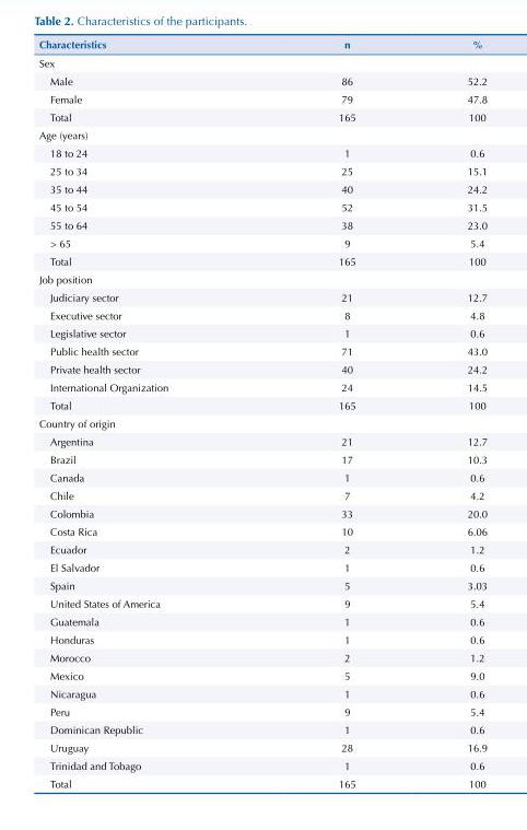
<table><thead><tr><td>Characteristics</td><td>n</td><td>%</td></tr></thead><tbody><tr><td colspan="3">Sex</td></tr><tr><td>Male</td><td>86</td><td>52.2</td></tr><tr><td>Female</td><td>79</td><td>47.8</td></tr><tr><td>Total</td><td>165</td><td>100</td></tr><tr><td colspan="3">Age (years)</td></tr><tr><td>18 to 24</td><td>1</td><td>0.6</td></tr><tr><td>25 to 34</td><td>25</td><td>15.1</td></tr><tr><td>35 to 44</td><td>40</td><td>24.2</td></tr><tr><td>45 to 54</td><td>52</td><td>31.5</td></tr><tr><td>55 to 64</td><td>38</td><td>23.0</td></tr><tr><td>&gt; 65</td><td>9</td><td>5.4</td></tr><tr><td>Total</td><td>165</td><td>100</td></tr><tr><td colspan="3">Job position</td></tr><tr><td>Judiciary sector</td><td>21</td><td>12.7</td></tr><tr><td>Executive sector</td><td>8</td><td>4.8</td></tr><tr><td>Legislative sector</td><td>1</td><td>0.6</td></tr><tr><td>Public health sector</td><td>71</td><td>43.0</td></tr><tr><td>Private health sector</td><td>40</td><td>24.2</td></tr><tr><td>International Organization</td><td>24</td><td>14.5</td></tr><tr><td>Total</td><td>165</td><td>100</td></tr><tr><td colspan="3">Country of origin</td></tr><tr><td>Argentina</td><td>21</td><td>12.7</td></tr><tr><td>Brazil</td><td>17</td><td>10.3</td></tr><tr><td>Canada</td><td>1</td><td>0.6</td></tr><tr><td>Chile</td><td>7</td><td>4.2</td></tr><tr><td>Colombia</td><td>33</td><td>20.0</td></tr><tr><td>Costa Rica</td><td>10</td><td>6.06</td></tr><tr><td>Ecuador</td><td>2</td><td>1.2</td></tr><tr><td>El Salvador</td><td>1</td><td>0.6</td></tr><tr><td>Spain</td><td>5</td><td>3.03</td></tr><tr><td>United States of America</td><td>9</td><td>5.4</td></tr><tr><td>Guatemala</td><td>1</td><td>0.6</td></tr><tr><td>Honduras</td><td>1</td><td>0.6</td></tr><tr><td>Morocco</td><td>2</td><td>1.2</td></tr><tr><td>Mexico</td><td>5</td><td>9.0</td></tr><tr><td>Nicaragua</td><td>1</td><td>0.6</td></tr><tr><td>Peru</td><td>9</td><td>5.4</td></tr><tr><td>Dominican Republic</td><td>1</td><td>0.6</td></tr><tr><td>Uruguay</td><td>28</td><td>16.9</td></tr><tr><td>Trinidad and Tobago</td><td>1</td><td>0.6</td></tr><tr><td>Total</td><td>165</td><td>100</td></tr></tbody></table>